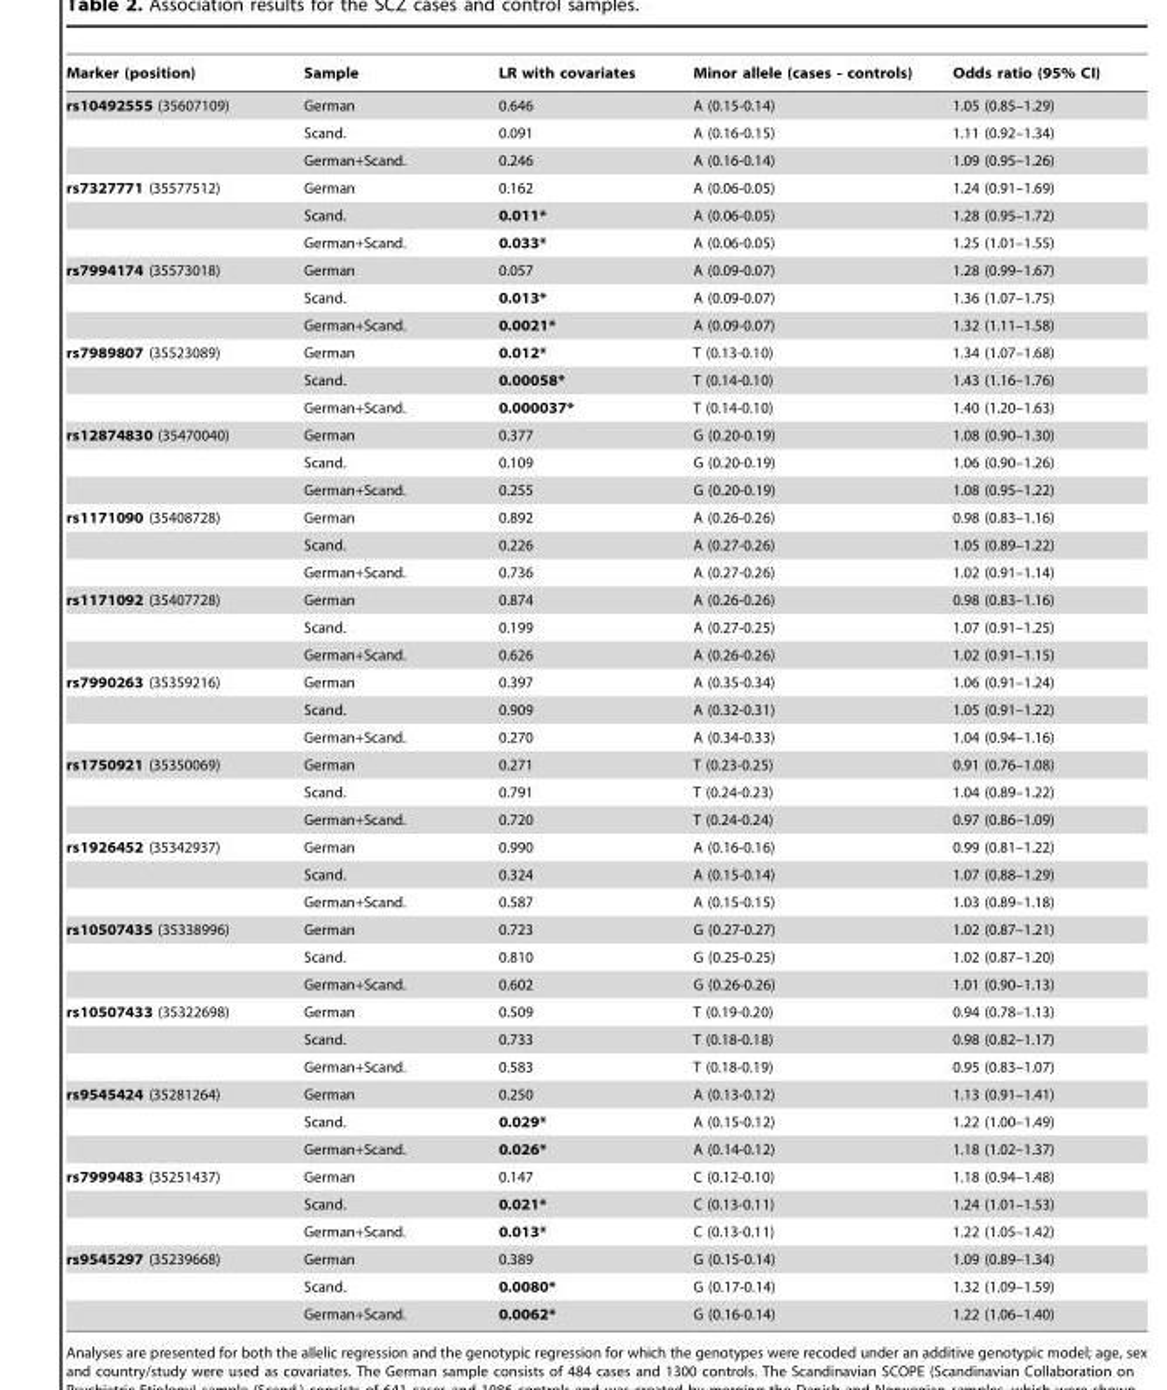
<table><thead><tr><td>Marker (position)</td><td>Sample</td><td>LR with covariates</td><td>Minor allele (cases - controls)</td><td>Odds ratio (95% CI)</td></tr></thead><tbody><tr><td rowspan="3">rs10492555 (35607109)</td><td>German</td><td>0.646</td><td>A (0.15-0.14)</td><td>1.05 (0.85–1.29)</td></tr><tr><td>Scand.</td><td>0.091</td><td>A (0.16-0.15)</td><td>1.11 (0.92–1.34)</td></tr><tr><td>German+Scand.</td><td>0.246</td><td>A (0.16-0.14)</td><td>1.09 (0.95–1.26)</td></tr><tr><td rowspan="3">rs7327771 (35577512)</td><td>German</td><td>0.162</td><td>A (0.06-0.05)</td><td>1.24 (0.91–1.69)</td></tr><tr><td>Scand.</td><td>0.011*</td><td>A (0.06-0.05)</td><td>1.28 (0.95–1.72)</td></tr><tr><td>German+Scand.</td><td>0.033*</td><td>A (0.06-0.05)</td><td>1.25 (1.01–1.55)</td></tr><tr><td rowspan="3">rs7994174 (35573018)</td><td>German</td><td>0.057</td><td>A (0.09-0.07)</td><td>1.28 (0.99–1.67)</td></tr><tr><td>Scand.</td><td>0.013*</td><td>A (0.09-0.07)</td><td>1.36 (1.07–1.75)</td></tr><tr><td>German+Scand.</td><td>0.0021*</td><td>A (0.09-0.07)</td><td>1.32 (1.11–1.58)</td></tr><tr><td rowspan="3">rs7989807 (35523089)</td><td>German</td><td>0.012*</td><td>T (0.13-0.10)</td><td>1.34 (1.07–1.68)</td></tr><tr><td>Scand.</td><td>0.00058*</td><td>T (0.14-0.10)</td><td>1.43 (1.16–1.76)</td></tr><tr><td>German+Scand.</td><td>0.000037*</td><td>T (0.14-0.10)</td><td>1.40 (1.20–1.63)</td></tr><tr><td rowspan="3">rs12874830 (35470040)</td><td>German</td><td>0.377</td><td>G (0.20-0.19)</td><td>1.08 (0.90–1.30)</td></tr><tr><td>Scand.</td><td>0.109</td><td>G (0.20-0.19)</td><td>1.06 (0.90–1.26)</td></tr><tr><td>German+Scand.</td><td>0.255</td><td>G (0.20-0.19)</td><td>1.08 (0.95–1.22)</td></tr><tr><td rowspan="3">rs1171090 (35408728)</td><td>German</td><td>0.892</td><td>A (0.26-0.26)</td><td>0.98 (0.83–1.16)</td></tr><tr><td>Scand.</td><td>0.226</td><td>A (0.27-0.26)</td><td>1.05 (0.89–1.22)</td></tr><tr><td>German+Scand.</td><td>0.736</td><td>A (0.27-0.26)</td><td>1.02 (0.91–1.14)</td></tr><tr><td rowspan="3">rs1171092 (35407728)</td><td>German</td><td>0.874</td><td>A (0.26-0.26)</td><td>0.98 (0.83–1.16)</td></tr><tr><td>Scand.</td><td>0.199</td><td>A (0.27-0.25)</td><td>1.07 (0.91–1.25)</td></tr><tr><td>German+Scand.</td><td>0.626</td><td>A (0.26-0.26)</td><td>1.02 (0.91–1.15)</td></tr><tr><td rowspan="3">rs7990263 (35359216)</td><td>German</td><td>0.397</td><td>A (0.35-0.34)</td><td>1.06 (0.91–1.24)</td></tr><tr><td>Scand.</td><td>0.909</td><td>A (0.32-0.31)</td><td>1.05 (0.91–1.22)</td></tr><tr><td>German+Scand.</td><td>0.270</td><td>A (0.34-0.33)</td><td>1.04 (0.94–1.16)</td></tr><tr><td rowspan="3">rs1750921 (35350069)</td><td>German</td><td>0.271</td><td>T (0.23-0.25)</td><td>0.91 (0.76–1.08)</td></tr><tr><td>Scand.</td><td>0.791</td><td>T (0.24-0.23)</td><td>1.04 (0.89–1.22)</td></tr><tr><td>German+Scand.</td><td>0.720</td><td>T (0.24-0.24)</td><td>0.97 (0.86–1.09)</td></tr><tr><td rowspan="3">rs1926452 (35342937)</td><td>German</td><td>0.990</td><td>A (0.16-0.16)</td><td>0.99 (0.81–1.22)</td></tr><tr><td>Scand.</td><td>0.324</td><td>A (0.15-0.14)</td><td>1.07 (0.88–1.29)</td></tr><tr><td>German+Scand.</td><td>0.587</td><td>A (0.15-0.15)</td><td>1.03 (0.89–1.18)</td></tr><tr><td rowspan="3">rs10507435 (35338996)</td><td>German</td><td>0.723</td><td>G (0.27-0.27)</td><td>1.02 (0.87–1.21)</td></tr><tr><td>Scand.</td><td>0.810</td><td>G (0.25-0.25)</td><td>1.02 (0.87–1.20)</td></tr><tr><td>German+Scand.</td><td>0.602</td><td>G (0.26-0.26)</td><td>1.01 (0.90–1.13)</td></tr><tr><td rowspan="3">rs10507433 (35322698)</td><td>German</td><td>0.509</td><td>T (0.19-0.20)</td><td>0.94 (0.78–1.13)</td></tr><tr><td>Scand.</td><td>0.733</td><td>T (0.18-0.18)</td><td>0.98 (0.82–1.17)</td></tr><tr><td>German+Scand.</td><td>0.583</td><td>T (0.18-0.19)</td><td>0.95 (0.83–1.07)</td></tr><tr><td rowspan="3">rs9545424 (35281264)</td><td>German</td><td>0.250</td><td>A (0.13-0.12)</td><td>1.13 (0.91–1.41)</td></tr><tr><td>Scand.</td><td>0.029*</td><td>A (0.15-0.12)</td><td>1.22 (1.00–1.49)</td></tr><tr><td>German+Scand.</td><td>0.026*</td><td>A (0.14-0.12)</td><td>1.18 (1.02–1.37)</td></tr><tr><td rowspan="3">rs7999483 (35251437)</td><td>German</td><td>0.147</td><td>C (0.12-0.10)</td><td>1.18 (0.94–1.48)</td></tr><tr><td>Scand.</td><td>0.021*</td><td>C (0.13-0.11)</td><td>1.24 (1.01–1.53)</td></tr><tr><td>German+Scand.</td><td>0.013*</td><td>C (0.13-0.11)</td><td>1.22 (1.05–1.42)</td></tr><tr><td rowspan="3">rs9545297 (35239668)</td><td>German</td><td>0.389</td><td>G (0.15-0.14)</td><td>1.09 (0.89–1.34)</td></tr><tr><td>Scand.</td><td>0.0080*</td><td>G (0.17-0.14)</td><td>1.32 (1.09–1.59)</td></tr><tr><td>German+Scand.</td><td>0.0062*</td><td>G (0.16-0.14)</td><td>1.22 (1.06–1.40)</td></tr></tbody></table>